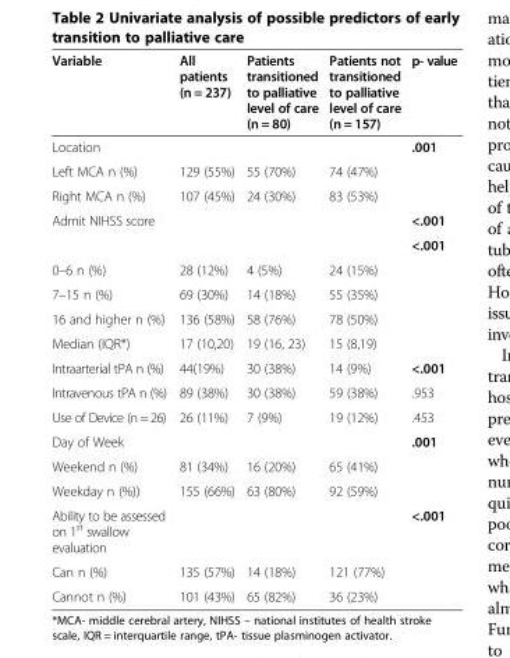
<table><thead><tr><td>Variable</td><td>All patients (n = 237)</td><td>Patients transitioned to palliative level of care (n = 80)</td><td>Patients not transitioned to palliative level of care (n = 157)</td><td>p- value</td></tr></thead><tbody><tr><td>Location</td><td></td><td></td><td></td><td>.001</td></tr><tr><td>Left MCA n (%)</td><td>129 (55%)</td><td>55 (70%)</td><td>74 (47%)</td><td></td></tr><tr><td>Right MCA n (%)</td><td>107 (45%)</td><td>24 (30%)</td><td>83 (53%)</td><td></td></tr><tr><td rowspan="2">Admit NIHSS score</td><td></td><td></td><td></td><td>&lt;.001</td></tr><tr><td></td><td></td><td></td><td>&lt;.001</td></tr><tr><td>0–6 n (%)</td><td>28 (12%)</td><td>4 (5%)</td><td>24 (15%)</td><td></td></tr><tr><td>7–15 n (%)</td><td>69 (30%)</td><td>14 (18%)</td><td>55 (35%)</td><td></td></tr><tr><td>16 and higher n (%)</td><td>136 (58%)</td><td>58 (76%)</td><td>78 (50%)</td><td></td></tr><tr><td>Median (IQR*)</td><td>17 (10,20)</td><td>19 (16, 23)</td><td>15 (8,19)</td><td></td></tr><tr><td>Intraarterial tPA n (%)</td><td>44(19%)</td><td>30 (38%)</td><td>14 (9%)</td><td>&lt;.001</td></tr><tr><td>Intravenous tPA n (%)</td><td>89 (38%)</td><td>30 (38%)</td><td>59 (38%)</td><td>.953</td></tr><tr><td>Use of Device (n = 26)</td><td>26 (11%)</td><td>7 (9%)</td><td>19 (12%)</td><td>.453</td></tr><tr><td>Day of Week</td><td></td><td></td><td></td><td>.001</td></tr><tr><td>Weekend n (%)</td><td>81 (34%)</td><td>16 (20%)</td><td>65 (41%)</td><td></td></tr><tr><td>Weekday n (%))</td><td>155 (66%)</td><td>63 (80%)</td><td>92 (59%)</td><td></td></tr><tr><td>Ability to be assessed on 1<sup>st</sup> swallow evaluation</td><td></td><td></td><td></td><td>&lt;.001</td></tr><tr><td>Can n (%)</td><td>135 (57%)</td><td>14 (18%)</td><td>121 (77%)</td><td></td></tr><tr><td>Cannot n (%)</td><td>101 (43%)</td><td>65 (82%)</td><td>36 (23%)</td><td></td></tr></tbody></table>